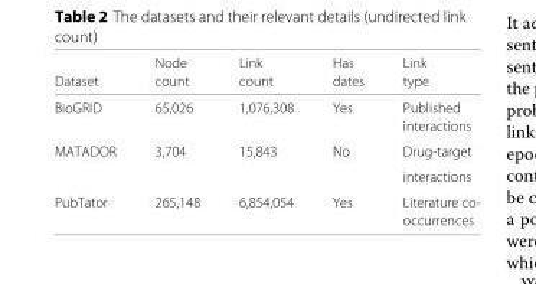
<table><thead><tr><td rowspan="2">Dataset</td><td rowspan="2">Node count</td><td rowspan="2">Link count</td><td rowspan="2">Has dates</td><td rowspan="2">Link type</td></tr><tr></tr></thead><tbody><tr><td rowspan="2">BioGRID</td><td>65,026</td><td>1,076,308</td><td>Yes</td><td>Published</td></tr><tr><td></td><td></td><td></td><td>interactions</td></tr><tr><td rowspan="2">MATADOR</td><td>3,704</td><td>15,843</td><td>No</td><td>Drug-target</td></tr><tr><td></td><td></td><td></td><td>interactions</td></tr><tr><td rowspan="2">PubTator</td><td>265,148</td><td>6,854,054</td><td>Yes</td><td>Literature co-</td></tr><tr><td></td><td></td><td></td><td>occurrences</td></tr></tbody></table>